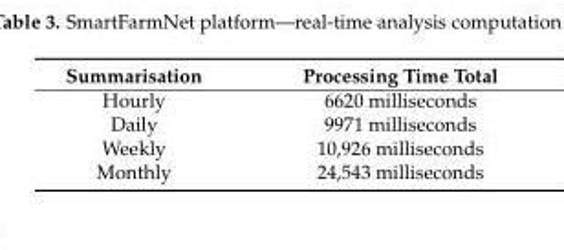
<table><thead><tr><td>Summarisation</td><td>Processing Time Total</td></tr></thead><tbody><tr><td>Hourly</td><td>6620 milliseconds</td></tr><tr><td>Daily</td><td>9971 milliseconds</td></tr><tr><td>Weekly</td><td>10,926 milliseconds</td></tr><tr><td>Monthly</td><td>24,543 milliseconds</td></tr></tbody></table>